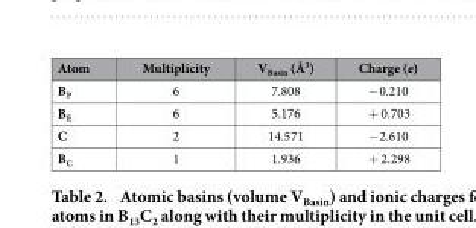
<table><thead><tr><td>Atom</td><td>Multiplicity</td><td>V<sub>Basin</sub> (Å<sup>3</sup>)</td><td>Charge (e)</td></tr></thead><tbody><tr><td>B<sub>P</sub></td><td>6</td><td>7.808</td><td>− 0.210</td></tr><tr><td>B<sub>E</sub></td><td>6</td><td>5.176</td><td>+ 0.703</td></tr><tr><td>C</td><td>2</td><td>14.571</td><td>− 2.610</td></tr><tr><td>B<sub>C</sub></td><td>1</td><td>1.936</td><td>+ 2.298</td></tr></tbody></table>